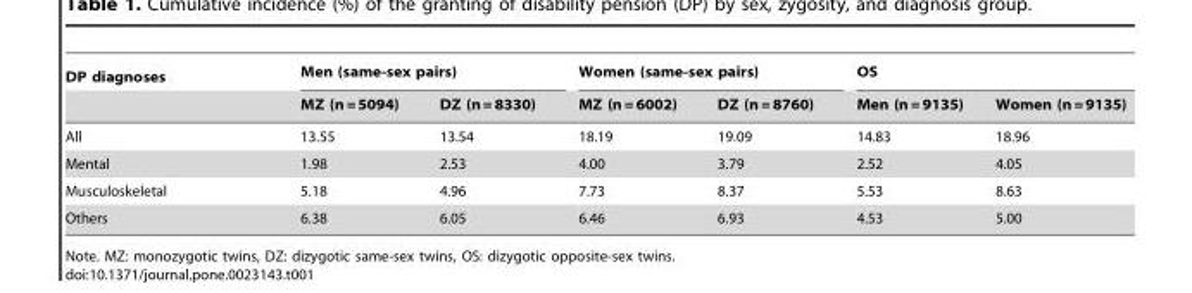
<table><thead><tr><td rowspan="2">DP diagnoses</td><td colspan="2">Men (same-sex pairs)</td><td colspan="2">Women (same-sex pairs)</td><td colspan="2">OS</td></tr><tr><td>MZ (n = 5094)</td><td>DZ (n = 8330)</td><td>MZ (n = 6002)</td><td>DZ (n = 8760)</td><td>Men (n = 9135)</td><td>Women (n = 9135)</td></tr></thead><tbody><tr><td>All</td><td>13.55</td><td>13.54</td><td>18.19</td><td>19.09</td><td>14.83</td><td>18.96</td></tr><tr><td>Mental</td><td>1.98</td><td>2.53</td><td>4.00</td><td>3.79</td><td>2.52</td><td>4.05</td></tr><tr><td>Musculoskeletal</td><td>5.18</td><td>4.96</td><td>7.73</td><td>8.37</td><td>5.53</td><td>8.63</td></tr><tr><td>Others</td><td>6.38</td><td>6.05</td><td>6.46</td><td>6.93</td><td>4.53</td><td>5.00</td></tr></tbody></table>